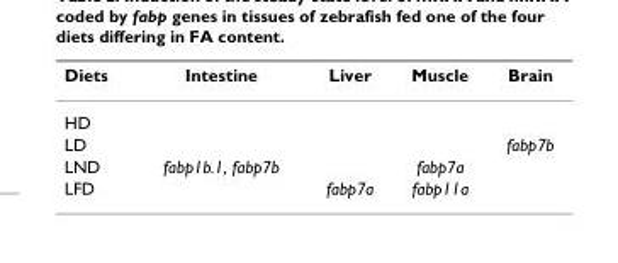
<table><thead><tr><td>Diets</td><td>Intestine</td><td>Liver</td><td>Muscle</td><td>Brain</td></tr></thead><tbody><tr><td colspan="5">HD</td></tr><tr><td>LD</td><td></td><td></td><td></td><td>fabp7b</td></tr><tr><td>LND</td><td>fabp1b.1, fabp7b</td><td></td><td>fabp7a</td><td></td></tr><tr><td>LFD</td><td></td><td>fabp7a</td><td>fabp11a</td><td></td></tr></tbody></table>